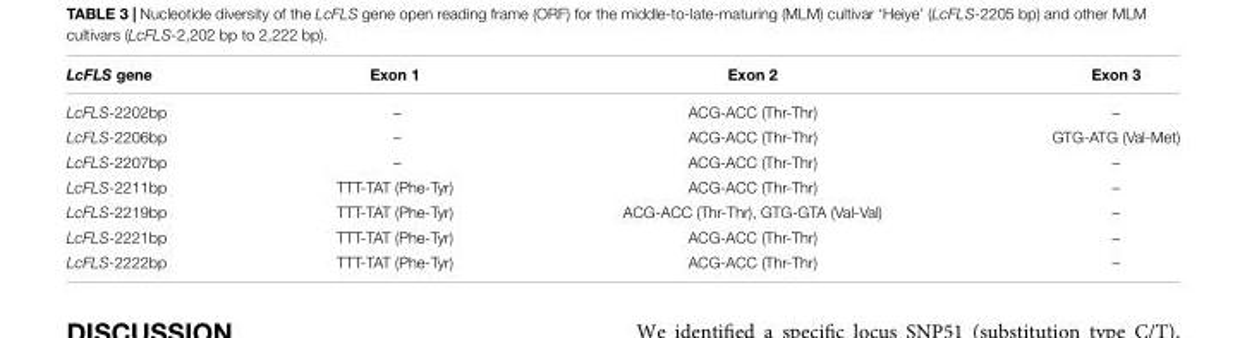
<table><thead><tr><td>LcFLS gene</td><td>Exon 1</td><td>Exon 2</td><td>Exon 3</td></tr></thead><tbody><tr><td>LcFLS-2202bp</td><td>–</td><td>ACG-ACC (Thr-Thr)</td><td>–</td></tr><tr><td>LcFLS-2206bp</td><td>–</td><td>ACG-ACC (Thr-Thr)</td><td>GTG-ATG (Val-Met)</td></tr><tr><td>LcFLS-2207bp</td><td>–</td><td>ACG-ACC (Thr-Thr)</td><td>–</td></tr><tr><td>LcFLS-2211bp</td><td>TTT-TAT (Phe-Tyr)</td><td>ACG-ACC (Thr-Thr)</td><td>–</td></tr><tr><td>LcFLS-2219bp</td><td>TTT-TAT (Phe-Tyr)</td><td>ACG-ACC (Thr-Thr), GTG-GTA (Val-Val)</td><td>–</td></tr><tr><td>LcFLS-2221bp</td><td>TTT-TAT (Phe-Tyr)</td><td>ACG-ACC (Thr-Thr)</td><td>–</td></tr><tr><td>LcFLS-2222bp</td><td>TTT-TAT (Phe-Tyr)</td><td>ACG-ACC (Thr-Thr)</td><td>–</td></tr></tbody></table>